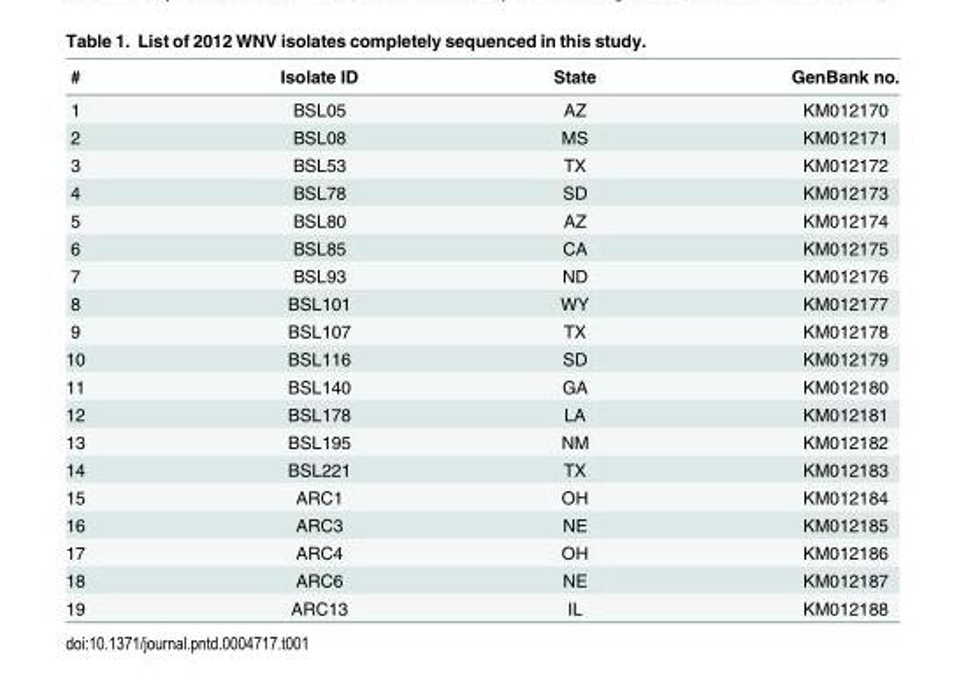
<table><thead><tr><td>#</td><td>Isolate ID</td><td>State</td><td>GenBank no.</td></tr></thead><tbody><tr><td>1</td><td>BSL05</td><td>AZ</td><td>KM012170</td></tr><tr><td>2</td><td>BSL08</td><td>MS</td><td>KM012171</td></tr><tr><td>3</td><td>BSL53</td><td>TX</td><td>KM012172</td></tr><tr><td>4</td><td>BSL78</td><td>SD</td><td>KM012173</td></tr><tr><td>5</td><td>BSL80</td><td>AZ</td><td>KM012174</td></tr><tr><td>6</td><td>BSL85</td><td>CA</td><td>KM012175</td></tr><tr><td>7</td><td>BSL93</td><td>ND</td><td>KM012176</td></tr><tr><td>8</td><td>BSL101</td><td>WY</td><td>KM012177</td></tr><tr><td>9</td><td>BSL107</td><td>TX</td><td>KM012178</td></tr><tr><td>10</td><td>BSL116</td><td>SD</td><td>KM012179</td></tr><tr><td>11</td><td>BSL140</td><td>GA</td><td>KM012180</td></tr><tr><td>12</td><td>BSL178</td><td>LA</td><td>KM012181</td></tr><tr><td>13</td><td>BSL195</td><td>NM</td><td>KM012182</td></tr><tr><td>14</td><td>BSL221</td><td>TX</td><td>KM012183</td></tr><tr><td>15</td><td>ARC1</td><td>OH</td><td>KM012184</td></tr><tr><td>16</td><td>ARC3</td><td>NE</td><td>KM012185</td></tr><tr><td>17</td><td>ARC4</td><td>OH</td><td>KM012186</td></tr><tr><td>18</td><td>ARC6</td><td>NE</td><td>KM012187</td></tr><tr><td>19</td><td>ARC13</td><td>IL</td><td>KM012188</td></tr></tbody></table>